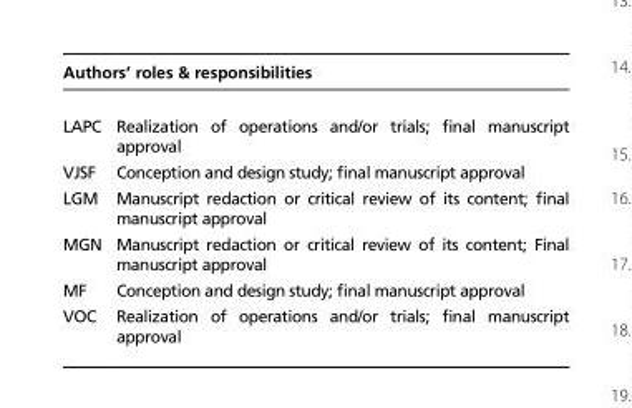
<table><thead><tr><td colspan="2">Authors’ roles &amp; responsibilities</td></tr><tr><td>LAPC</td><td>Realization of operations and/or trials; final manuscript approval</td></tr></thead><tbody><tr><td>VJSF</td><td>Conception and design study; final manuscript approval</td></tr><tr><td>LGM</td><td>Manuscript redaction or critical review of its content; final manuscript approval</td></tr><tr><td>MGN</td><td>Manuscript redaction or critical review of its content; Final manuscript approval</td></tr><tr><td>MF</td><td>Conception and design study; final manuscript approval</td></tr><tr><td>VOC</td><td>Realization of operations and/or trials; final manuscript approval</td></tr></tbody></table>